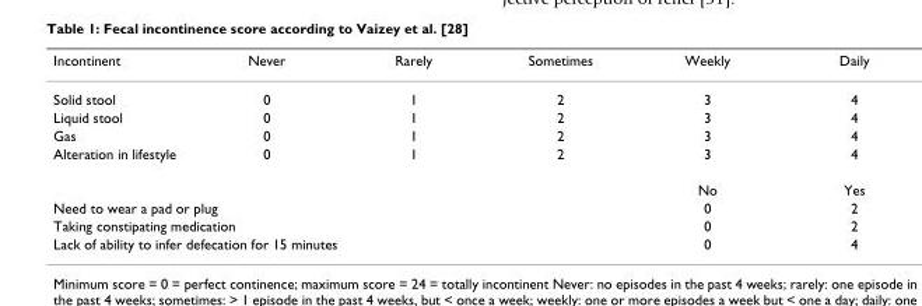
<table><thead><tr><td>Incontinent</td><td>Never</td><td>Rarely</td><td>Sometimes</td><td>Weekly</td><td>Daily</td></tr></thead><tbody><tr><td>Solid stool</td><td>0</td><td>1</td><td>2</td><td>3</td><td>4</td></tr><tr><td>Liquid stool</td><td>0</td><td>1</td><td>2</td><td>3</td><td>4</td></tr><tr><td>Gas</td><td>0</td><td>1</td><td>2</td><td>3</td><td>4</td></tr><tr><td rowspan="2">Alteration in lifestyle</td><td>0</td><td>1</td><td>2</td><td>3</td><td>4</td></tr><tr><td></td><td></td><td></td><td>No</td><td>Yes</td></tr><tr><td colspan="4">Need to wear a pad or plug</td><td>0</td><td>2</td></tr><tr><td colspan="4">Taking constipating medication</td><td>0</td><td>2</td></tr><tr><td colspan="4">Lack of ability to infer defecation for 15 minutes</td><td>0</td><td>4</td></tr></tbody></table>